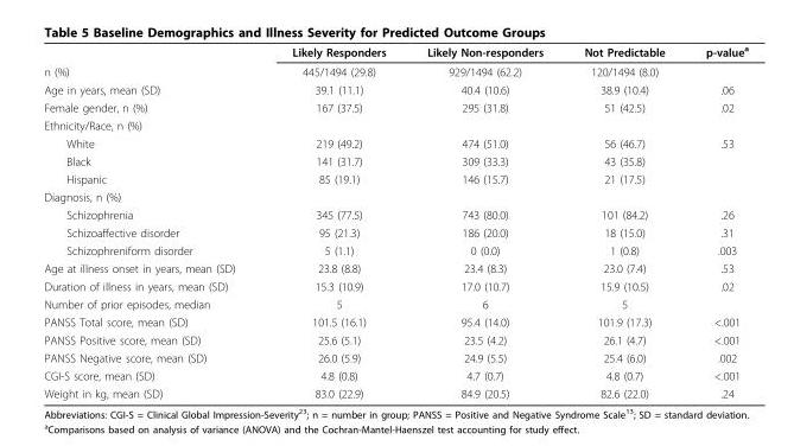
<table><thead><tr><td></td><td>Likely Responders</td><td>Likely Non-responders</td><td>Not Predictable</td><td>p-value<sup>a</sup></td></tr></thead><tbody><tr><td>n (%)</td><td>445/1494 (29.8)</td><td>929/1494 (62.2)</td><td>120/1494 (8.0)</td><td></td></tr><tr><td>Age in years, mean (SD)</td><td>39.1 (11.1)</td><td>40.4 (10.6)</td><td>38.9 (10.4)</td><td>.06</td></tr><tr><td>Female gender, n (%)</td><td>167 (37.5)</td><td>295 (31.8)</td><td>51 (42.5)</td><td>.02</td></tr><tr><td colspan="5">Ethnicity/Race, n (%)</td></tr><tr><td>White</td><td>219 (49.2)</td><td>474 (51.0)</td><td>56 (46.7)</td><td>.53</td></tr><tr><td>Black</td><td>141 (31.7)</td><td>309 (33.3)</td><td>43 (35.8)</td><td></td></tr><tr><td>Hispanic</td><td>85 (19.1)</td><td>146 (15.7)</td><td>21 (17.5)</td><td></td></tr><tr><td colspan="5">Diagnosis, n (%)</td></tr><tr><td>Schizophrenia</td><td>345 (77.5)</td><td>743 (80.0)</td><td>101 (84.2)</td><td>.26</td></tr><tr><td>Schizoaffective disorder</td><td>95 (21.3)</td><td>186 (20.0)</td><td>18 (15.0)</td><td>.31</td></tr><tr><td>Schizophreniform disorder</td><td>5 (1.1)</td><td>0 (0.0)</td><td>1 (0.8)</td><td>.003</td></tr><tr><td>Age at illness onset in years, mean (SD)</td><td>23.8 (8.8)</td><td>23.4 (8.3)</td><td>23.0 (7.4)</td><td>.53</td></tr><tr><td>Duration of illness in years, mean (SD)</td><td>15.3 (10.9)</td><td>17.0 (10.7)</td><td>15.9 (10.5)</td><td>.02</td></tr><tr><td>Number of prior episodes, median</td><td>5</td><td>6</td><td>5</td><td></td></tr><tr><td>PANSS Total score, mean (SD)</td><td>101.5 (16.1)</td><td>95.4 (14.0)</td><td>101.9 (17.3)</td><td>&lt;.001</td></tr><tr><td>PANSS Positive score, mean (SD)</td><td>25.6 (5.1)</td><td>23.5 (4.2)</td><td>26.1 (4.7)</td><td>&lt;.001</td></tr><tr><td>PANSS Negative score, mean (SD)</td><td>26.0 (5.9)</td><td>24.9 (5.5)</td><td>25.4 (6.0)</td><td>.002</td></tr><tr><td>CGI-S score, mean (SD)</td><td>4.8 (0.8)</td><td>4.7 (0.7)</td><td>4.8 (0.7)</td><td>&lt;.001</td></tr><tr><td>Weight in kg, mean (SD)</td><td>83.0 (22.9)</td><td>84.9 (20.5)</td><td>82.6 (22.0)</td><td>.24</td></tr></tbody></table>